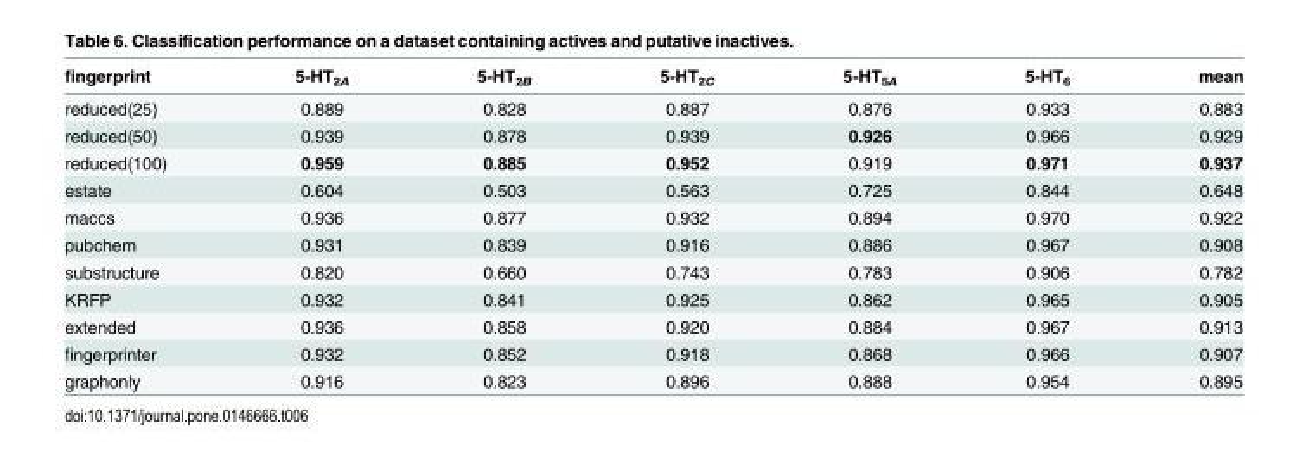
<table><thead><tr><td>fingerprint</td><td>5-HT<sub>2A</sub></td><td>5-HT<sub>2B</sub></td><td>5-HT<sub>2C</sub></td><td>5-HT<sub>5A</sub></td><td>5-HT<sub>6</sub></td><td>mean</td></tr></thead><tbody><tr><td>reduced(25)</td><td>0.889</td><td>0.828</td><td>0.887</td><td>0.876</td><td>0.933</td><td>0.883</td></tr><tr><td>reduced(50)</td><td>0.939</td><td>0.878</td><td>0.939</td><td>0.926</td><td>0.966</td><td>0.929</td></tr><tr><td>reduced(100)</td><td>0.959</td><td>0.885</td><td>0.952</td><td>0.919</td><td>0.971</td><td>0.937</td></tr><tr><td>estate</td><td>0.604</td><td>0.503</td><td>0.563</td><td>0.725</td><td>0.844</td><td>0.648</td></tr><tr><td>maccs</td><td>0.936</td><td>0.877</td><td>0.932</td><td>0.894</td><td>0.970</td><td>0.922</td></tr><tr><td>pubchem</td><td>0.931</td><td>0.839</td><td>0.916</td><td>0.886</td><td>0.967</td><td>0.908</td></tr><tr><td>substructure</td><td>0.820</td><td>0.660</td><td>0.743</td><td>0.783</td><td>0.906</td><td>0.782</td></tr><tr><td>KRFP</td><td>0.932</td><td>0.841</td><td>0.925</td><td>0.862</td><td>0.965</td><td>0.905</td></tr><tr><td>extended</td><td>0.936</td><td>0.858</td><td>0.920</td><td>0.884</td><td>0.967</td><td>0.913</td></tr><tr><td>fingerprinter</td><td>0.932</td><td>0.852</td><td>0.918</td><td>0.868</td><td>0.966</td><td>0.907</td></tr><tr><td>graphonly</td><td>0.916</td><td>0.823</td><td>0.896</td><td>0.888</td><td>0.954</td><td>0.895</td></tr></tbody></table>